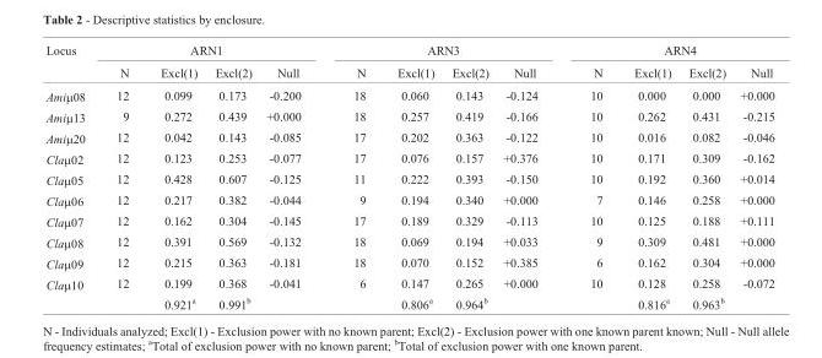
<table><thead><tr><td rowspan="2">Locus</td><td colspan="4">ARN1</td><td colspan="4">ARN3</td><td colspan="4">ARN4</td></tr><tr><td>N</td><td>Excl(1)</td><td>Excl(2)</td><td>Null</td><td>N</td><td>Excl(1)</td><td>Excl(2)</td><td>Null</td><td>N</td><td>Excl(1)</td><td>Excl(2)</td><td>Null</td></tr></thead><tbody><tr><td>Amiμ08</td><td>12</td><td>0.099</td><td>0.173</td><td>-0.200</td><td>18</td><td>0.060</td><td>0.143</td><td>-0.124</td><td>10</td><td>0.000</td><td>0.000</td><td>+0.000</td></tr><tr><td>Amiμ13</td><td>9</td><td>0.272</td><td>0.439</td><td>+0.000</td><td>18</td><td>0.257</td><td>0.419</td><td>-0.166</td><td>10</td><td>0.262</td><td>0.431</td><td>-0.215</td></tr><tr><td>Amiμ20</td><td>12</td><td>0.042</td><td>0.143</td><td>-0.085</td><td>17</td><td>0.202</td><td>0.363</td><td>-0.122</td><td>10</td><td>0.016</td><td>0.082</td><td>-0.046</td></tr><tr><td>Claμ02</td><td>12</td><td>0.123</td><td>0.253</td><td>-0.077</td><td>17</td><td>0.076</td><td>0.157</td><td>+0.376</td><td>10</td><td>0.171</td><td>0.309</td><td>-0.162</td></tr><tr><td>Claμ05</td><td>12</td><td>0.428</td><td>0.607</td><td>-0.125</td><td>11</td><td>0.222</td><td>0.393</td><td>-0.150</td><td>10</td><td>0.192</td><td>0.360</td><td>+0.014</td></tr><tr><td>Claμ06</td><td>12</td><td>0.217</td><td>0.382</td><td>-0.044</td><td>9</td><td>0.194</td><td>0.340</td><td>+0.000</td><td>7</td><td>0.146</td><td>0.258</td><td>+0.000</td></tr><tr><td>Claμ07</td><td>12</td><td>0.162</td><td>0.304</td><td>-0.145</td><td>17</td><td>0.189</td><td>0.329</td><td>-0.113</td><td>10</td><td>0.125</td><td>0.188</td><td>+0.111</td></tr><tr><td>Claμ08</td><td>12</td><td>0.391</td><td>0.569</td><td>-0.132</td><td>18</td><td>0.069</td><td>0.194</td><td>+0.033</td><td>9</td><td>0.309</td><td>0.481</td><td>+0.000</td></tr><tr><td>Claμ09</td><td>12</td><td>0.215</td><td>0.363</td><td>-0.181</td><td>18</td><td>0.070</td><td>0.152</td><td>+0.385</td><td>6</td><td>0.162</td><td>0.304</td><td>+0.000</td></tr><tr><td rowspan="2">Claμ10</td><td>12</td><td>0.199</td><td>0.368</td><td>-0.041</td><td>6</td><td>0.147</td><td>0.265</td><td>+0.000</td><td>10</td><td>0.128</td><td>0.258</td><td>-0.072</td></tr><tr><td></td><td>0.921<sup>a</sup></td><td>0.991<sup>b</sup></td><td></td><td></td><td>0.806<sup>a</sup></td><td>0.964<sup>b</sup></td><td></td><td></td><td>0.816<sup>a</sup></td><td>0.963<sup>b</sup></td><td></td></tr></tbody></table>